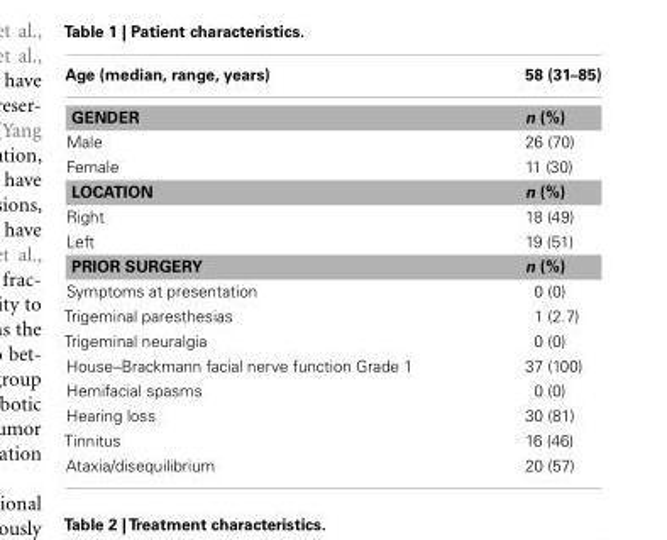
<table><thead><tr><td>Age (median, range, years)</td><td>58 (31–85)</td></tr></thead><tbody><tr><td>GENDER</td><td>n (%)</td></tr><tr><td>Male</td><td>26 (70)</td></tr><tr><td>Female</td><td>11 (30)</td></tr><tr><td>LOCATION</td><td>n (%)</td></tr><tr><td>Right</td><td>18 (49)</td></tr><tr><td>Left</td><td>19 (51)</td></tr><tr><td>PRIOR SURGERY</td><td>n (%)</td></tr><tr><td>Symptoms at presentation</td><td>0 (0)</td></tr><tr><td>Trigeminal paresthesias</td><td>1 (2.7)</td></tr><tr><td>Trigeminal neuralgia</td><td>0 (0)</td></tr><tr><td>House–Brackmann facial nerve function Grade 1</td><td>37 (100)</td></tr><tr><td>Hemifacial spasms</td><td>0 (0)</td></tr><tr><td>Hearing loss</td><td>30 (81)</td></tr><tr><td>Tinnitus</td><td>16 (46)</td></tr><tr><td>Ataxia/disequilibrium</td><td>20 (57)</td></tr></tbody></table>